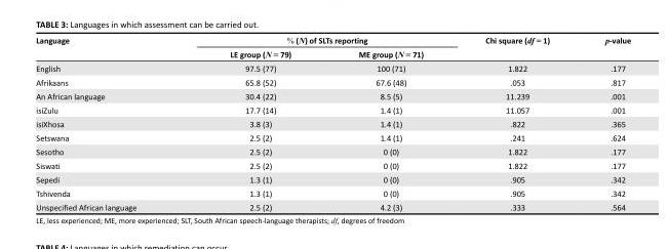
<table><thead><tr><td rowspan="2">Language</td><td colspan="2">% (N) of SLTs reporting</td><td rowspan="2">Chi square (df = 1)</td><td rowspan="2">p-value</td></tr><tr><td>LE group (N = 79)</td><td>ME group (N = 71)</td></tr></thead><tbody><tr><td>English</td><td>97.5 (77)</td><td>100 (71)</td><td>1.822</td><td>.177</td></tr><tr><td>Afrikaans</td><td>65.8 (52)</td><td>67.6 (48)</td><td>.053</td><td>.817</td></tr><tr><td>An African language</td><td>30.4 (22)</td><td>8.5 (5)</td><td>11.239</td><td>.001</td></tr><tr><td>isiZulu</td><td>17.7 (14)</td><td>1.4 (1)</td><td>11.057</td><td>.001</td></tr><tr><td>isiXhosa</td><td>3.8 (3)</td><td>1.4 (1)</td><td>.822</td><td>.365</td></tr><tr><td>Setswana</td><td>2.5 (2)</td><td>1.4 (1)</td><td>.241</td><td>.624</td></tr><tr><td>Sesotho</td><td>2.5 (2)</td><td>0 (0)</td><td>1.822</td><td>.177</td></tr><tr><td>Siswati</td><td>2.5 (2)</td><td>0 (0)</td><td>1.822</td><td>.177</td></tr><tr><td>Sepedi</td><td>1.3 (1)</td><td>0 (0)</td><td>.905</td><td>.342</td></tr><tr><td>Tshivenda</td><td>1.3 (1)</td><td>0 (0)</td><td>.905</td><td>.342</td></tr><tr><td>Unspecified African language</td><td>2.5 (2)</td><td>4.2 (3)</td><td>.333</td><td>.564</td></tr></tbody></table>